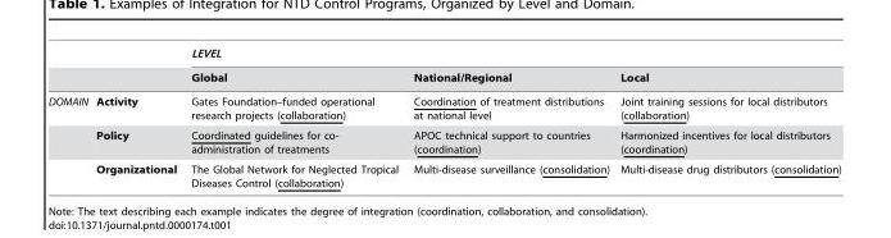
<table><thead><tr><td rowspan="2"></td><td rowspan="2"></td><td colspan="3">LEVEL</td></tr><tr><td>Global</td><td>National/Regional</td><td>Local</td></tr></thead><tbody><tr><td rowspan="3">DOMAIN</td><td>Activity</td><td>Gates Foundation–funded operational research projects (collaboration)</td><td>Coordination of treatment distributions at national level</td><td>Joint training sessions for local distributors (collaboration)</td></tr><tr><td>Policy</td><td>Coordinated guidelines for co- administration of treatments</td><td>APOC technical support to countries (coordination)</td><td>Harmonized incentives for local distributors (coordination)</td></tr><tr><td>Organizational</td><td>The Global Network for Neglected Tropical Diseases Control (collaboration)</td><td>Multi-disease surveillance (consolidation)</td><td>Multi-disease drug distributors (consolidation)</td></tr></tbody></table>